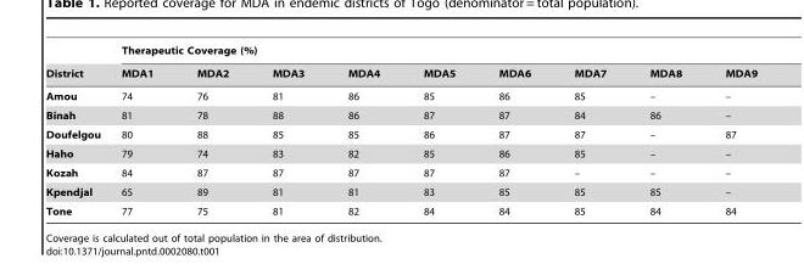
<table><thead><tr><td rowspan="2">District</td><td colspan="9">Therapeutic Coverage (%)</td></tr><tr><td>MDA1</td><td>MDA2</td><td>MDA3</td><td>MDA4</td><td>MDA5</td><td>MDA6</td><td>MDA7</td><td>MDA8</td><td>MDA9</td></tr></thead><tbody><tr><td>Amou</td><td>74</td><td>76</td><td>81</td><td>86</td><td>85</td><td>86</td><td>85</td><td>–</td><td>–</td></tr><tr><td>Binah</td><td>81</td><td>78</td><td>88</td><td>86</td><td>87</td><td>87</td><td>84</td><td>86</td><td>–</td></tr><tr><td>Doufelgou</td><td>80</td><td>88</td><td>85</td><td>85</td><td>86</td><td>87</td><td>87</td><td>–</td><td>87</td></tr><tr><td>Haho</td><td>79</td><td>74</td><td>83</td><td>82</td><td>85</td><td>86</td><td>85</td><td>–</td><td>–</td></tr><tr><td>Kozah</td><td>84</td><td>87</td><td>87</td><td>87</td><td>87</td><td>87</td><td>–</td><td>–</td><td>–</td></tr><tr><td>Kpendjal</td><td>65</td><td>89</td><td>81</td><td>81</td><td>83</td><td>85</td><td>85</td><td>85</td><td>–</td></tr><tr><td>Tone</td><td>77</td><td>75</td><td>81</td><td>82</td><td>84</td><td>84</td><td>85</td><td>84</td><td>84</td></tr></tbody></table>